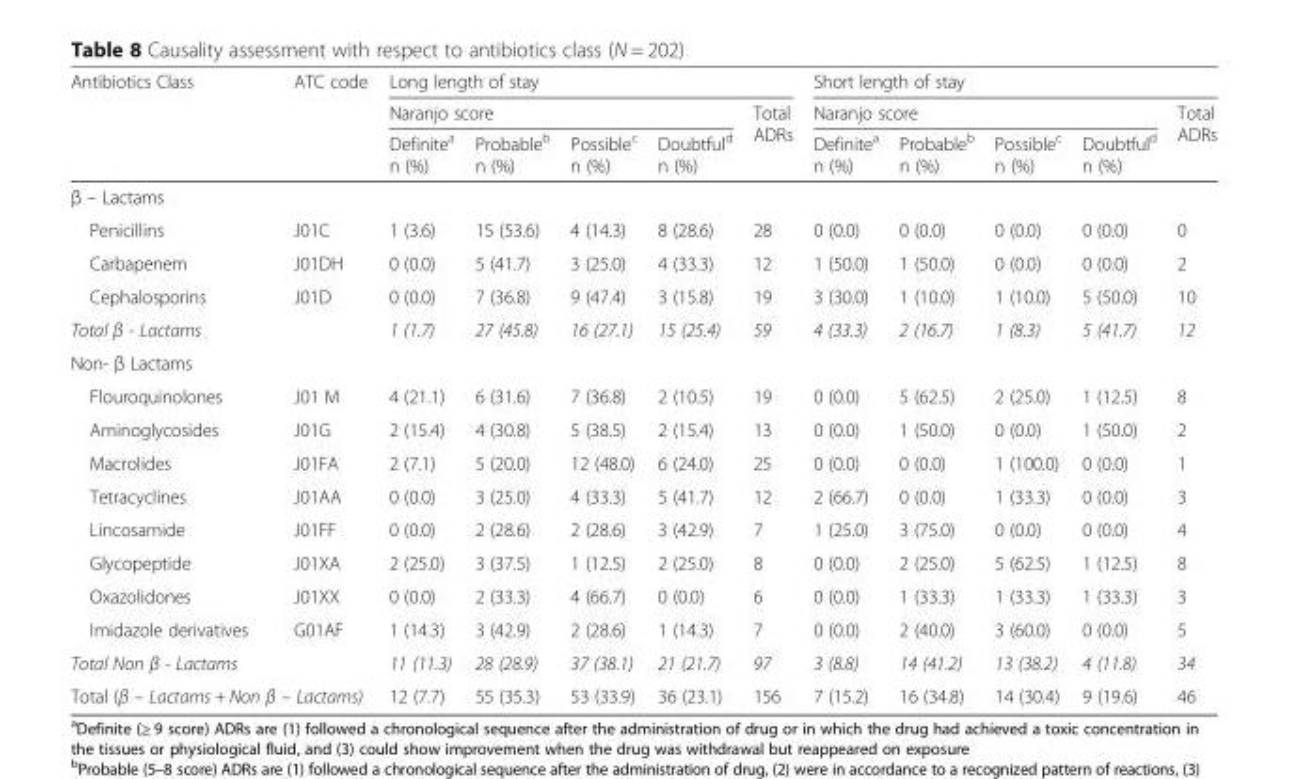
<table><thead><tr><td rowspan="3">Antibiotics Class</td><td rowspan="3">ATC code</td><td colspan="5">Long length of stay</td><td colspan="5">Short length of stay</td></tr><tr><td colspan="4">Naranjo score</td><td rowspan="2">Total ADRs</td><td colspan="4">Naranjo score</td><td rowspan="2">Total ADRs</td></tr><tr><td>Definite<sup>a</sup> n (%)</td><td>Probable<sup>b</sup> n (%)</td><td>Possible<sup>c</sup> n (%)</td><td>Doubtful<sup>d</sup> n (%)</td><td>Definite<sup>a</sup> n (%)</td><td>Probable<sup>b</sup> n (%)</td><td>Possible<sup>c</sup> n (%)</td><td>Doubtful<sup>d</sup> n (%)</td></tr></thead><tbody><tr><td colspan="12">β – Lactams</td></tr><tr><td>Penicillins</td><td>J01C</td><td>1 (3.6)</td><td>15 (53.6)</td><td>4 (14.3)</td><td>8 (28.6)</td><td>28</td><td>0 (0.0)</td><td>0 (0.0)</td><td>0 (0.0)</td><td>0 (0.0)</td><td>0</td></tr><tr><td>Carbapenem</td><td>J01DH</td><td>0 (0.0)</td><td>5 (41.7)</td><td>3 (25.0)</td><td>4 (33.3)</td><td>12</td><td>1 (50.0)</td><td>1 (50.0)</td><td>0 (0.0)</td><td>0 (0.0)</td><td>2</td></tr><tr><td>Cephalosporins</td><td>J01D</td><td>0 (0.0)</td><td>7 (36.8)</td><td>9 (47.4)</td><td>3 (15.8)</td><td>19</td><td>3 (30.0)</td><td>1 (10.0)</td><td>1 (10.0)</td><td>5 (50.0)</td><td>10</td></tr><tr><td colspan="2">Total β - Lactams</td><td>1 (1.7)</td><td>27 (45.8)</td><td>16 (27.1)</td><td>15 (25.4)</td><td>59</td><td>4 (33.3)</td><td>2 (16.7)</td><td>1 (8.3)</td><td>5 (41.7)</td><td>12</td></tr><tr><td colspan="12">Non- β Lactams</td></tr><tr><td>Flouroquinolones</td><td>J01 M</td><td>4 (21.1)</td><td>6 (31.6)</td><td>7 (36.8)</td><td>2 (10.5)</td><td>19</td><td>0 (0.0)</td><td>5 (62.5)</td><td>2 (25.0)</td><td>1 (12.5)</td><td>8</td></tr><tr><td>Aminoglycosides</td><td>J01G</td><td>2 (15.4)</td><td>4 (30.8)</td><td>5 (38.5)</td><td>2 (15.4)</td><td>13</td><td>0 (0.0)</td><td>1 (50.0)</td><td>0 (0.0)</td><td>1 (50.0)</td><td>2</td></tr><tr><td>Macrolides</td><td>J01FA</td><td>2 (7.1)</td><td>5 (20.0)</td><td>12 (48.0)</td><td>6 (24.0)</td><td>25</td><td>0 (0.0)</td><td>0 (0.0)</td><td>1 (100.0)</td><td>0 (0.0)</td><td>1</td></tr><tr><td>Tetracyclines</td><td>J01AA</td><td>0 (0.0)</td><td>3 (25.0)</td><td>4 (33.3)</td><td>5 (41.7)</td><td>12</td><td>2 (66.7)</td><td>0 (0.0)</td><td>1 (33.3)</td><td>0 (0.0)</td><td>3</td></tr><tr><td>Lincosamide</td><td>J01FF</td><td>0 (0.0)</td><td>2 (28.6)</td><td>2 (28.6)</td><td>3 (42.9)</td><td>7</td><td>1 (25.0)</td><td>3 (75.0)</td><td>0 (0.0)</td><td>0 (0.0)</td><td>4</td></tr><tr><td>Glycopeptide</td><td>J01XA</td><td>2 (25.0)</td><td>3 (37.5)</td><td>1 (12.5)</td><td>2 (25.0)</td><td>8</td><td>0 (0.0)</td><td>2 (25.0)</td><td>5 (62.5)</td><td>1 (12.5)</td><td>8</td></tr><tr><td>Oxazolidones</td><td>J01XX</td><td>0 (0.0)</td><td>2 (33.3)</td><td>4 (66.7)</td><td>0 (0.0)</td><td>6</td><td>0 (0.0)</td><td>1 (33.3)</td><td>1 (33.3)</td><td>1 (33.3)</td><td>3</td></tr><tr><td>Imidazole derivatives</td><td>G01AF</td><td>1 (14.3)</td><td>3 (42.9)</td><td>2 (28.6)</td><td>1 (14.3)</td><td>7</td><td>0 (0.0)</td><td>2 (40.0)</td><td>3 (60.0)</td><td>0 (0.0)</td><td>5</td></tr><tr><td colspan="2">Total Non β - Lactams</td><td>11 (11.3)</td><td>28 (28.9)</td><td>37 (38.1)</td><td>21 (21.7)</td><td>97</td><td>3 (8.8)</td><td>14 (41.2)</td><td>13 (38.2)</td><td>4 (11.8)</td><td>34</td></tr><tr><td colspan="2">Total (β – Lactams + Non β – Lactams)</td><td>12 (7.7)</td><td>55 (35.3)</td><td>53 (33.9)</td><td>36 (23.1)</td><td>156</td><td>7 (15.2)</td><td>16 (34.8)</td><td>14 (30.4)</td><td>9 (19.6)</td><td>46</td></tr></tbody></table>